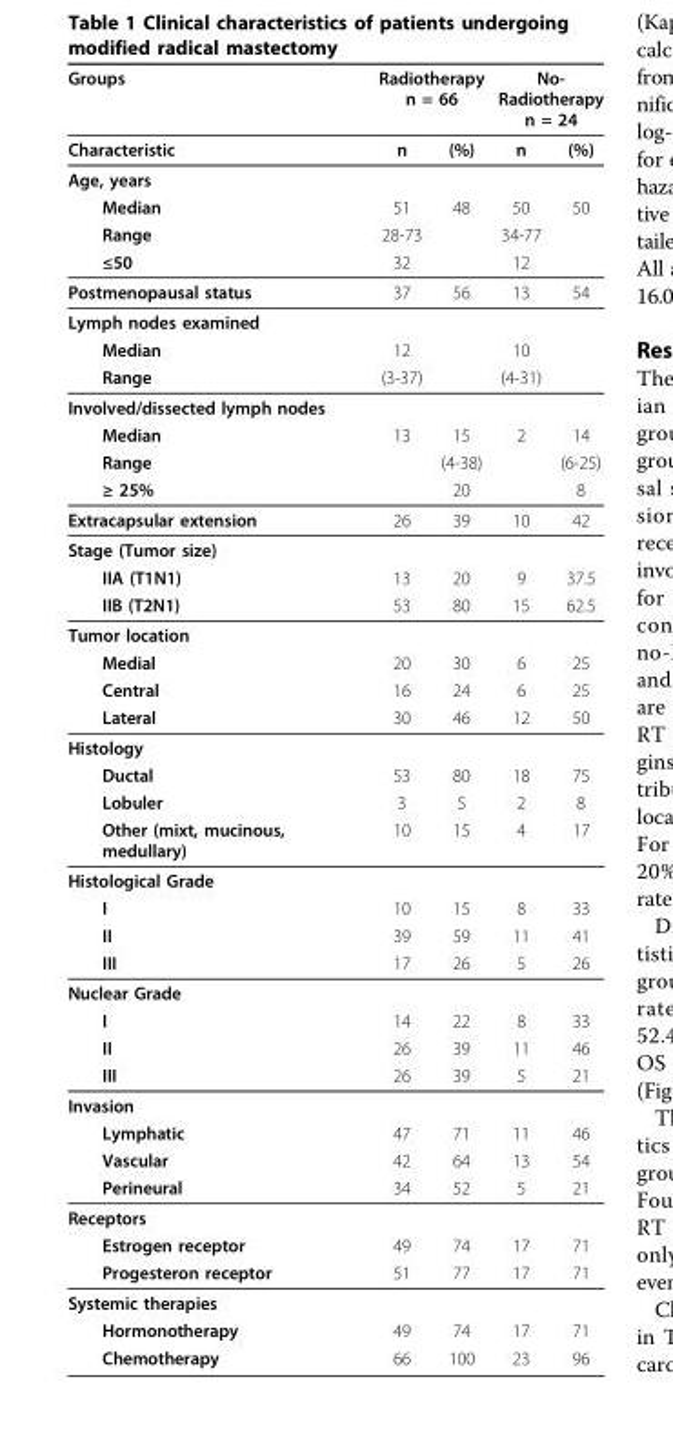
<table><thead><tr><td rowspan="2">Groups Characteristic</td><td colspan="2">Radiotherapy n = 66</td><td colspan="2">No- Radiotherapy n = 24</td></tr><tr><td>n</td><td>(%)</td><td>n</td><td>(%)</td></tr></thead><tbody><tr><td colspan="5">Age, years</td></tr><tr><td>Median</td><td>51</td><td>48</td><td>50</td><td>50</td></tr><tr><td>Range</td><td>28-73</td><td></td><td>34-77</td><td></td></tr><tr><td>≤50</td><td>32</td><td></td><td>12</td><td></td></tr><tr><td>Postmenopausal status</td><td>37</td><td>56</td><td>13</td><td>54</td></tr><tr><td colspan="5">Lymph nodes examined</td></tr><tr><td>Median</td><td>12</td><td></td><td>10</td><td></td></tr><tr><td>Range</td><td>(3-37)</td><td></td><td>(4-31)</td><td></td></tr><tr><td colspan="5">Involved/dissected lymph nodes</td></tr><tr><td>Median</td><td>13</td><td>15</td><td>2</td><td>14</td></tr><tr><td>Range</td><td></td><td>(4-38)</td><td></td><td>(6-25)</td></tr><tr><td>≥ 25%</td><td></td><td>20</td><td></td><td>8</td></tr><tr><td>Extracapsular extension</td><td>26</td><td>39</td><td>10</td><td>42</td></tr><tr><td colspan="5">Stage (Tumor size)</td></tr><tr><td>IIA (T1N1)</td><td>13</td><td>20</td><td>9</td><td>37.5</td></tr><tr><td>IIB (T2N1)</td><td>53</td><td>80</td><td>15</td><td>62.5</td></tr><tr><td colspan="5">Tumor location</td></tr><tr><td>Medial</td><td>20</td><td>30</td><td>6</td><td>25</td></tr><tr><td>Central</td><td>16</td><td>24</td><td>6</td><td>25</td></tr><tr><td>Lateral</td><td>30</td><td>46</td><td>12</td><td>50</td></tr><tr><td colspan="5">Histology</td></tr><tr><td>Ductal</td><td>53</td><td>80</td><td>18</td><td>75</td></tr><tr><td>Lobuler</td><td>3</td><td>5</td><td>2</td><td>8</td></tr><tr><td>Other (mixt, mucinous, medullary)</td><td>10</td><td>15</td><td>4</td><td>17</td></tr><tr><td colspan="5">Histological Grade</td></tr><tr><td>I</td><td>10</td><td>15</td><td>8</td><td>33</td></tr><tr><td>II</td><td>39</td><td>59</td><td>11</td><td>41</td></tr><tr><td>III</td><td>17</td><td>26</td><td>5</td><td>26</td></tr><tr><td colspan="5">Nuclear Grade</td></tr><tr><td>I</td><td>14</td><td>22</td><td>8</td><td>33</td></tr><tr><td>II</td><td>26</td><td>39</td><td>11</td><td>46</td></tr><tr><td>III</td><td>26</td><td>39</td><td>5</td><td>21</td></tr><tr><td colspan="5">Invasion</td></tr><tr><td>Lymphatic</td><td>47</td><td>71</td><td>11</td><td>46</td></tr><tr><td>Vascular</td><td>42</td><td>64</td><td>13</td><td>54</td></tr><tr><td>Perineural</td><td>34</td><td>52</td><td>5</td><td>21</td></tr><tr><td colspan="5">Receptors</td></tr><tr><td>Estrogen receptor</td><td>49</td><td>74</td><td>17</td><td>71</td></tr><tr><td>Progesteron receptor</td><td>51</td><td>77</td><td>17</td><td>71</td></tr><tr><td colspan="5">Systemic therapies</td></tr><tr><td>Hormonotherapy</td><td>49</td><td>74</td><td>17</td><td>71</td></tr><tr><td>Chemotherapy</td><td>66</td><td>100</td><td>23</td><td>96</td></tr></tbody></table>